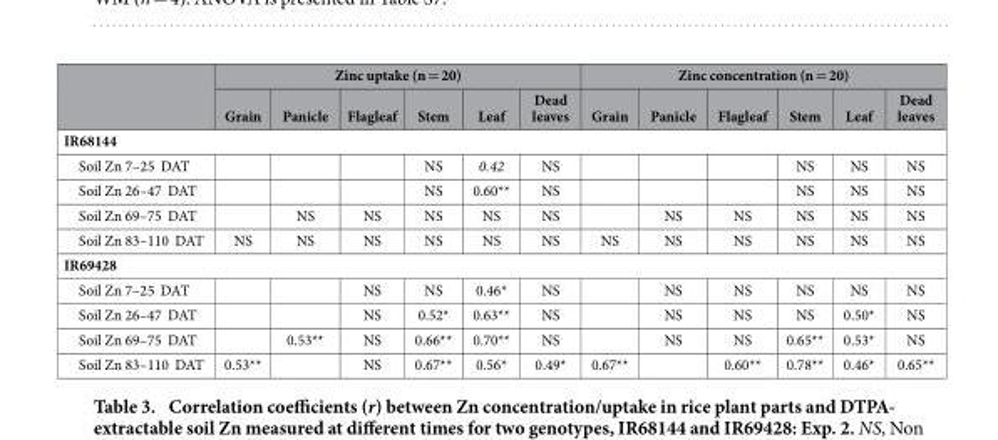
<table><thead><tr><td rowspan="2"></td><td colspan="6">Zinc uptake (n = 20)</td><td colspan="6">Zinc concentration (n = 20)</td></tr><tr><td>Grain</td><td>Panicle</td><td>Flagleaf</td><td>Stem</td><td>Leaf</td><td>Dead leaves</td><td>Grain</td><td>Panicle</td><td>Flagleaf</td><td>Stem</td><td>Leaf</td><td>Dead leaves</td></tr></thead><tbody><tr><td colspan="13">IR68144</td></tr><tr><td>Soil Zn 7–25 DAT</td><td></td><td></td><td></td><td>NS</td><td>0.42</td><td>NS</td><td></td><td></td><td></td><td>NS</td><td>NS</td><td>NS</td></tr><tr><td>Soil Zn 26–47 DAT</td><td></td><td></td><td></td><td>NS</td><td>0.60**</td><td>NS</td><td></td><td></td><td></td><td>NS</td><td>NS</td><td>NS</td></tr><tr><td>Soil Zn 69–75 DAT</td><td></td><td>NS</td><td>NS</td><td>NS</td><td>NS</td><td>NS</td><td></td><td>NS</td><td>NS</td><td>NS</td><td>NS</td><td>NS</td></tr><tr><td>Soil Zn 83–110 DAT</td><td>NS</td><td>NS</td><td>NS</td><td>NS</td><td>NS</td><td>NS</td><td>NS</td><td>NS</td><td>NS</td><td>NS</td><td>NS</td><td>NS</td></tr><tr><td colspan="13">IR69428</td></tr><tr><td>Soil Zn 7–25 DAT</td><td></td><td></td><td>NS</td><td>NS</td><td>0.46*</td><td>NS</td><td></td><td>NS</td><td>NS</td><td>NS</td><td>NS</td><td>NS</td></tr><tr><td>Soil Zn 26–47 DAT</td><td></td><td></td><td>NS</td><td>0.52*</td><td>0.63**</td><td>NS</td><td></td><td>NS</td><td>NS</td><td>NS</td><td>0.50*</td><td>NS</td></tr><tr><td>Soil Zn 69–75 DAT</td><td></td><td>0.53**</td><td>NS</td><td>0.66**</td><td>0.70**</td><td>NS</td><td></td><td>NS</td><td>NS</td><td>0.65**</td><td>0.53*</td><td>NS</td></tr><tr><td>Soil Zn 83–110 DAT</td><td>0.53**</td><td></td><td>NS</td><td>0.67**</td><td>0.56*</td><td>0.49*</td><td>0.67**</td><td></td><td>0.60**</td><td>0.78**</td><td>0.46*</td><td>0.65**</td></tr></tbody></table>